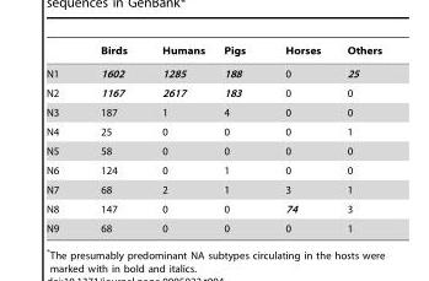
<table><thead><tr><td></td><td>Birds</td><td>Humans</td><td>Pigs</td><td>Horses</td><td>Others</td></tr></thead><tbody><tr><td>N1</td><td>1602</td><td>1285</td><td>188</td><td>0</td><td>25</td></tr><tr><td>N2</td><td>1167</td><td>2617</td><td>183</td><td>0</td><td>0</td></tr><tr><td>N3</td><td>187</td><td>1</td><td>4</td><td>0</td><td>0</td></tr><tr><td>N4</td><td>25</td><td>0</td><td>0</td><td>0</td><td>1</td></tr><tr><td>N5</td><td>58</td><td>0</td><td>0</td><td>0</td><td>0</td></tr><tr><td>N6</td><td>124</td><td>0</td><td>1</td><td>0</td><td>0</td></tr><tr><td>N7</td><td>68</td><td>2</td><td>1</td><td>3</td><td>1</td></tr><tr><td>N8</td><td>147</td><td>0</td><td>0</td><td>74</td><td>3</td></tr><tr><td>N9</td><td>68</td><td>0</td><td>0</td><td>0</td><td>1</td></tr></tbody></table>